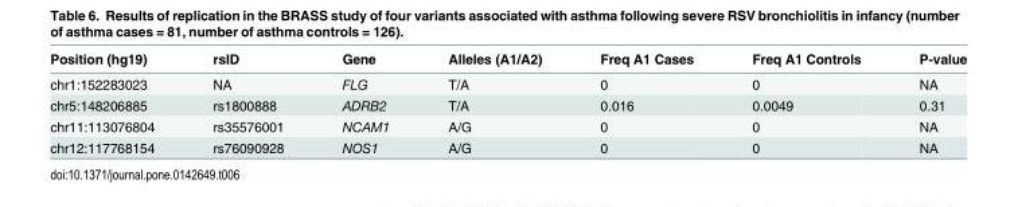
<table><thead><tr><td>Position (hg19)</td><td>rsID</td><td>Gene</td><td>Alleles (A1/A2)</td><td>Freq A1 Cases</td><td>Freq A1 Controls</td><td>P-value</td></tr></thead><tbody><tr><td>chr1:152283023</td><td>NA</td><td>FLG</td><td>T/A</td><td>0</td><td>0</td><td>NA</td></tr><tr><td>chr5:148206885</td><td>rs1800888</td><td>ADRB2</td><td>T/A</td><td>0.016</td><td>0.0049</td><td>0.31</td></tr><tr><td>chr11:113076804</td><td>rs35576001</td><td>NCAM1</td><td>A/G</td><td>0</td><td>0</td><td>NA</td></tr><tr><td>chr12:117768154</td><td>rs76090928</td><td>NOS1</td><td>A/G</td><td>0</td><td>0</td><td>NA</td></tr></tbody></table>